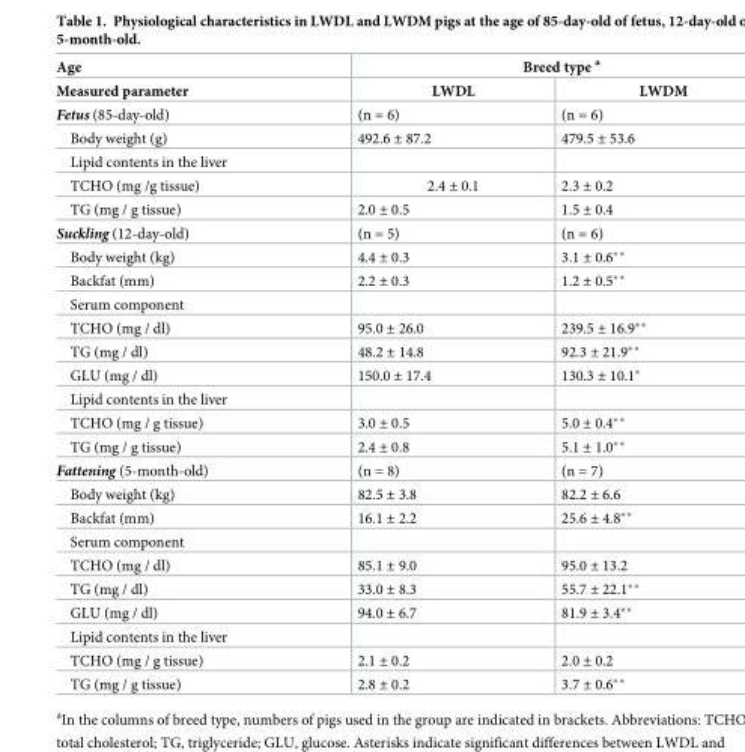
<table><thead><tr><td rowspan="2">Age Measured parameter</td><td colspan="2">Breed type <sup>a</sup></td></tr><tr><td>LWDL</td><td>LWDM</td></tr></thead><tbody><tr><td>Fetus (85-day-old)</td><td>(n = 6)</td><td>(n = 6)</td></tr><tr><td>Body weight (g)</td><td>492.6 ± 87.2</td><td>479.5 ± 53.6</td></tr><tr><td colspan="3">Lipid contents in the liver</td></tr><tr><td>TCHO (mg /g tissue)</td><td>2.4 ± 0.1</td><td>2.3 ± 0.2</td></tr><tr><td>TG (mg / g tissue)</td><td>2.0 ± 0.5</td><td>1.5 ± 0.4</td></tr><tr><td>Suckling (12-day-old)</td><td>(n = 5)</td><td>(n = 6)</td></tr><tr><td>Body weight (kg)</td><td>4.4 ± 0.3</td><td>3.1 ± 0.6**</td></tr><tr><td>Backfat (mm)</td><td>2.2 ± 0.3</td><td>1.2 ± 0.5**</td></tr><tr><td colspan="3">Serum component</td></tr><tr><td>TCHO (mg / dl)</td><td>95.0 ± 26.0</td><td>239.5 ± 16.9**</td></tr><tr><td>TG (mg / dl)</td><td>48.2 ± 14.8</td><td>92.3 ± 21.9**</td></tr><tr><td>GLU (mg / dl)</td><td>150.0 ± 17.4</td><td>130.3 ± 10.1*</td></tr><tr><td colspan="3">Lipid contents in the liver</td></tr><tr><td>TCHO (mg / g tissue)</td><td>3.0 ± 0.5</td><td>5.0 ± 0.4**</td></tr><tr><td>TG (mg / g tissue)</td><td>2.4 ± 0.8</td><td>5.1 ± 1.0**</td></tr><tr><td>Fattening (5-month-old)</td><td>(n = 8)</td><td>(n = 7)</td></tr><tr><td>Body weight (kg)</td><td>82.5 ± 3.8</td><td>82.2 ± 6.6</td></tr><tr><td>Backfat (mm)</td><td>16.1 ± 2.2</td><td>25.6 ± 4.8**</td></tr><tr><td colspan="3">Serum component</td></tr><tr><td>TCHO (mg / dl)</td><td>85.1 ± 9.0</td><td>95.0 ± 13.2</td></tr><tr><td>TG (mg / dl)</td><td>33.0 ± 8.3</td><td>55.7 ± 22.1**</td></tr><tr><td>GLU (mg / dl)</td><td>94.0 ± 6.7</td><td>81.9 ± 3.4**</td></tr><tr><td colspan="3">Lipid contents in the liver</td></tr><tr><td>TCHO (mg / g tissue)</td><td>2.1 ± 0.2</td><td>2.0 ± 0.2</td></tr><tr><td>TG (mg / g tissue)</td><td>2.8 ± 0.2</td><td>3.7 ± 0.6**</td></tr></tbody></table>